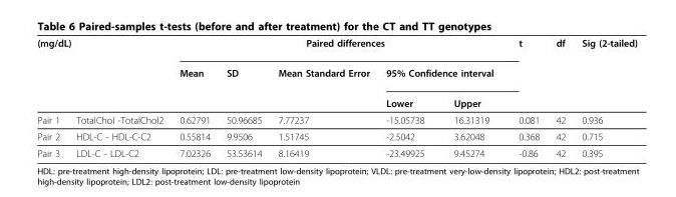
<table><thead><tr><td colspan="2">(mg/dL)</td><td colspan="5">Paired differences</td><td rowspan="3">t</td><td rowspan="3">df</td><td rowspan="3">Sig (2-tailed)</td></tr><tr><td rowspan="2"></td><td rowspan="2"></td><td rowspan="2">Mean</td><td rowspan="2">SD</td><td rowspan="2">Mean Standard Error</td><td colspan="2">95% Confidence interval</td></tr><tr><td>Lower</td><td>Upper</td></tr></thead><tbody><tr><td>Pair 1</td><td>TotalChol -TotalChol2</td><td>0.62791</td><td>50.96685</td><td>7.77237</td><td>-15.05738</td><td>16.31319</td><td>0.081</td><td>42</td><td>0.936</td></tr><tr><td>Pair 2</td><td>HDL-C - HDL-C-C2</td><td>0.55814</td><td>9.9506</td><td>1.51745</td><td>-2.5042</td><td>3.62048</td><td>0.368</td><td>42</td><td>0.715</td></tr><tr><td>Pair 3</td><td>LDL-C - LDL-C2</td><td>7.02326</td><td>53.53614</td><td>8.16419</td><td>-23.49925</td><td>9.45274</td><td>-0.86</td><td>42</td><td>0.395</td></tr></tbody></table>